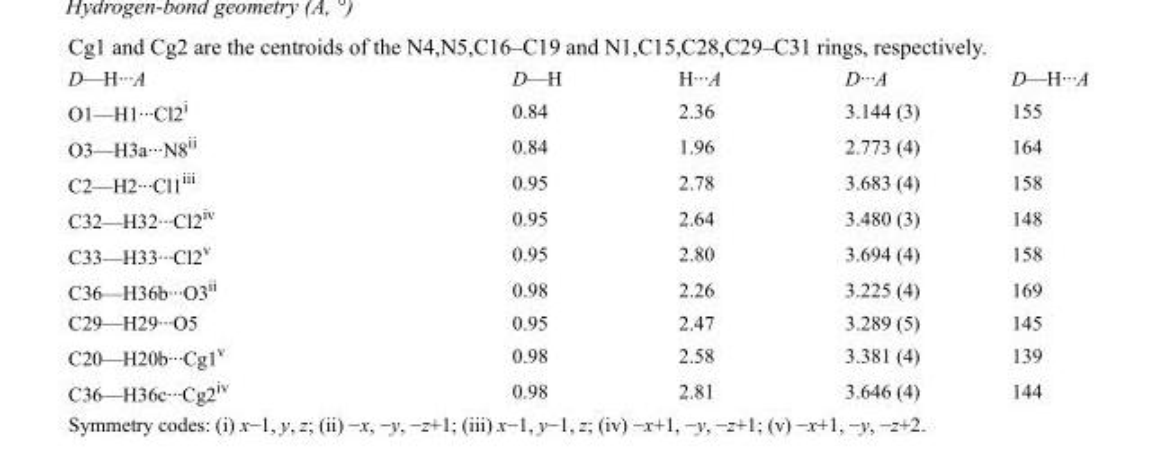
<table><tbody><tr><td>D—H···A</td><td>D—H</td><td>H···A</td><td>D···A</td><td>D—H···A</td></tr><tr><td>O1—H1···Cl2<sup>i</sup></td><td>0.84</td><td>2.36</td><td>3.144 (3)</td><td>155</td></tr><tr><td>O3—H3a···N8<sup>ii</sup></td><td>0.84</td><td>1.96</td><td>2.773 (4)</td><td>164</td></tr><tr><td>C2—H2···Cl1<sup>iii</sup></td><td>0.95</td><td>2.78</td><td>3.683 (4)</td><td>158</td></tr><tr><td>C32—H32···Cl2<sup>iv</sup></td><td>0.95</td><td>2.64</td><td>3.480 (3)</td><td>148</td></tr><tr><td>C33—H33···Cl2<sup>v</sup></td><td>0.95</td><td>2.80</td><td>3.694 (4)</td><td>158</td></tr><tr><td>C36—H36b···O3<sup>ii</sup></td><td>0.98</td><td>2.26</td><td>3.225 (4)</td><td>169</td></tr><tr><td>C29—H29···O5</td><td>0.95</td><td>2.47</td><td>3.289 (5)</td><td>145</td></tr><tr><td>C20—H20b···Cg1<sup>v</sup></td><td>0.98</td><td>2.58</td><td>3.381 (4)</td><td>139</td></tr><tr><td>C36—H36c···Cg2<sup>iv</sup></td><td>0.98</td><td>2.81</td><td>3.646 (4)</td><td>144</td></tr></tbody></table>